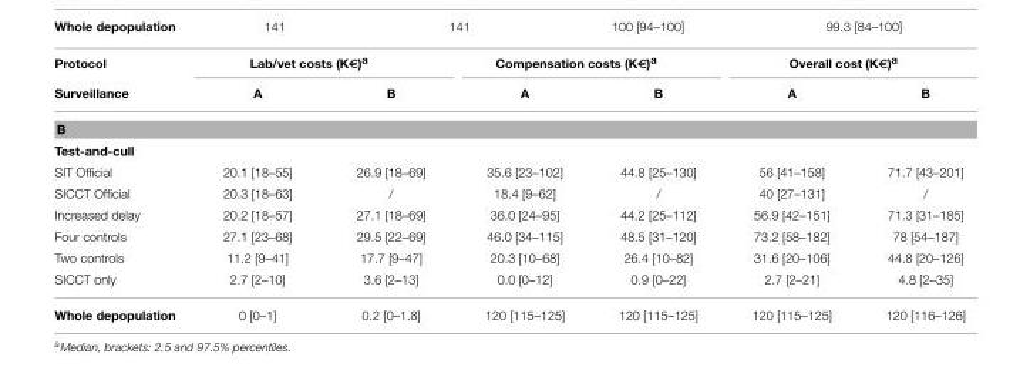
<table><thead><tr><td rowspan="2">Protocol Surveillance</td><td colspan="2">Lab/vet costs (K€)<sup>a</sup></td><td colspan="2">Compensation costs (K€)<sup>a</sup></td><td colspan="2">Overall cost (K€)<sup>a</sup></td></tr><tr><td>A</td><td>B</td><td>A</td><td>B</td><td>A</td><td>B</td></tr></thead><tbody><tr><td colspan="7">B</td></tr><tr><td colspan="7">Test-and-cull</td></tr><tr><td>SIT Official</td><td>20.1 [18–55]</td><td>26.9 [18–69]</td><td>35.6 [23–102]</td><td>44.8 [25–130]</td><td>56 [41–158]</td><td>71.7 [43–201]</td></tr><tr><td>SICCT Official</td><td>20.3 [18–63]</td><td>/</td><td>18.4 [9–62]</td><td>/</td><td>40 [27–131]</td><td>/</td></tr><tr><td>Increased delay</td><td>20.2 [18–57]</td><td>27.1 [18–69]</td><td>36.0 [24–95]</td><td>44.2 [25–112]</td><td>56.9 [42–151]</td><td>71.3 [31–185]</td></tr><tr><td>Four controls</td><td>27.1 [23–68]</td><td>29.5 [22–69]</td><td>46.0 [34–115]</td><td>48.5 [31–120]</td><td>73.2 [58–182]</td><td>78 [54–187]</td></tr><tr><td>Two controls</td><td>11.2 [9–41]</td><td>17.7 [9–47]</td><td>20.3 [10–68]</td><td>26.4 [10–82]</td><td>31.6 [20–106]</td><td>44.8 [20–126]</td></tr><tr><td>SICCT only</td><td>2.7 [2–10]</td><td>3.6 [2–13]</td><td>0.0 [0–12]</td><td>0.9 [0–22]</td><td>2.7 [2–21]</td><td>4.8 [2–35]</td></tr><tr><td>Whole depopulation</td><td>0 [0–1]</td><td>0.2 [0–1.8]</td><td>120 [115–125]</td><td>120 [115–125]</td><td>120 [115–125]</td><td>120 [116–126]</td></tr></tbody></table>